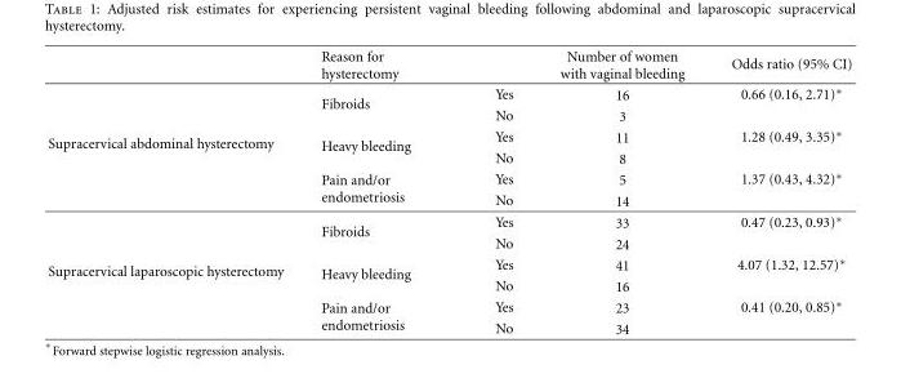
<table><thead><tr><td></td><td>Reason for hysterectomy</td><td></td><td>Number of women with vaginal bleeding</td><td>Odds ratio (95% CI)</td></tr></thead><tbody><tr><td rowspan="6">Supracervical abdominal hysterectomy</td><td rowspan="2">Fibroids</td><td>Yes</td><td>16</td><td>0.66 (0.16, 2.71)∗</td></tr><tr><td>No</td><td>3</td><td></td></tr><tr><td rowspan="2">Heavy bleeding</td><td>Yes</td><td>11</td><td>1.28 (0.49, 3.35)∗</td></tr><tr><td>No</td><td>8</td><td></td></tr><tr><td rowspan="2">Pain and/or endometriosis</td><td>Yes</td><td>5</td><td>1.37 (0.43, 4.32)∗</td></tr><tr><td>No</td><td>14</td><td></td></tr><tr><td rowspan="6">Supracervical laparoscopic hysterectomy</td><td rowspan="2">Fibroids</td><td>Yes</td><td>33</td><td>0.47 (0.23, 0.93)∗</td></tr><tr><td>No</td><td>24</td><td></td></tr><tr><td rowspan="2">Heavy bleeding</td><td>Yes</td><td>41</td><td>4.07 (1.32, 12.57)∗</td></tr><tr><td>No</td><td>16</td><td></td></tr><tr><td rowspan="2">Pain and/or endometriosis</td><td>Yes</td><td>23</td><td>0.41 (0.20, 0.85)∗</td></tr><tr><td>No</td><td>34</td><td></td></tr></tbody></table>